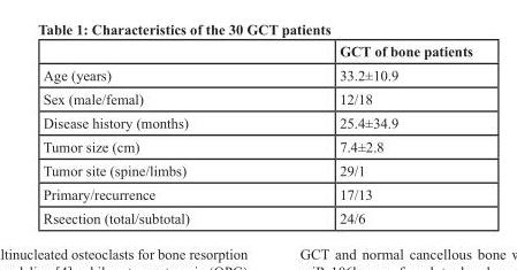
<table><thead><tr><td></td><td>GCT of bone patients</td></tr></thead><tbody><tr><td>Age (years)</td><td>33.2±10.9</td></tr><tr><td>Sex (male/femal)</td><td>12/18</td></tr><tr><td>Disease history (months)</td><td>25.4±34.9</td></tr><tr><td>Tumor size (cm)</td><td>7.4±2.8</td></tr><tr><td>Tumor site (spine/limbs)</td><td>29/1</td></tr><tr><td>Primary/recurrence</td><td>17/13</td></tr><tr><td>Rseection (total/subtotal)</td><td>24/6</td></tr></tbody></table>